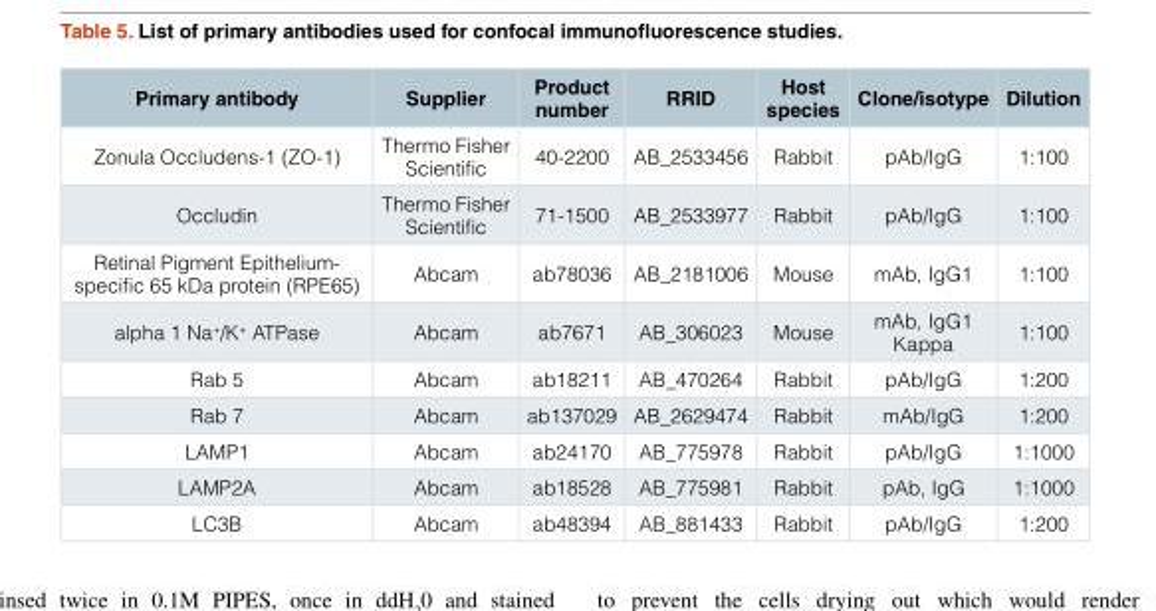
<table><thead><tr><td>Primary antibody</td><td>Supplier</td><td>Product number</td><td>RRID</td><td>Host species</td><td>Clone/isotype</td><td>Dilution</td></tr></thead><tbody><tr><td>Zonula Occludens-1 (ZO-1)</td><td>Thermo Fisher Scientific</td><td>40-2200</td><td>AB_2533456</td><td>Rabbit</td><td>pAb/IgG</td><td>1:100</td></tr><tr><td>Occludin</td><td>Thermo Fisher Scientific</td><td>71-1500</td><td>AB_2533977</td><td>Rabbit</td><td>pAb/IgG</td><td>1:100</td></tr><tr><td>Retinal Pigment Epithelium- specific 65 kDa protein (RPE65)</td><td>Abcam</td><td>ab78036</td><td>AB_2181006</td><td>Mouse</td><td>mAb, IgG1</td><td>1:100</td></tr><tr><td>alpha 1 Na<sup>+</sup>/K<sup>+</sup> ATPase</td><td>Abcam</td><td>ab7671</td><td>AB_306023</td><td>Mouse</td><td>mAb, IgG1 Kappa</td><td>1:100</td></tr><tr><td>Rab 5</td><td>Abcam</td><td>ab18211</td><td>AB_470264</td><td>Rabbit</td><td>pAb/IgG</td><td>1:200</td></tr><tr><td>Rab 7</td><td>Abcam</td><td>ab137029</td><td>AB_2629474</td><td>Rabbit</td><td>mAb/IgG</td><td>1:200</td></tr><tr><td>LAMP1</td><td>Abcam</td><td>ab24170</td><td>AB_775978</td><td>Rabbit</td><td>pAb/IgG</td><td>1:1000</td></tr><tr><td>LAMP2A</td><td>Abcam</td><td>ab18528</td><td>AB_775981</td><td>Rabbit</td><td>pAb, IgG</td><td>1:1000</td></tr><tr><td>LC3B</td><td>Abcam</td><td>ab48394</td><td>AB_881433</td><td>Rabbit</td><td>pAb/IgG</td><td>1:200</td></tr></tbody></table>